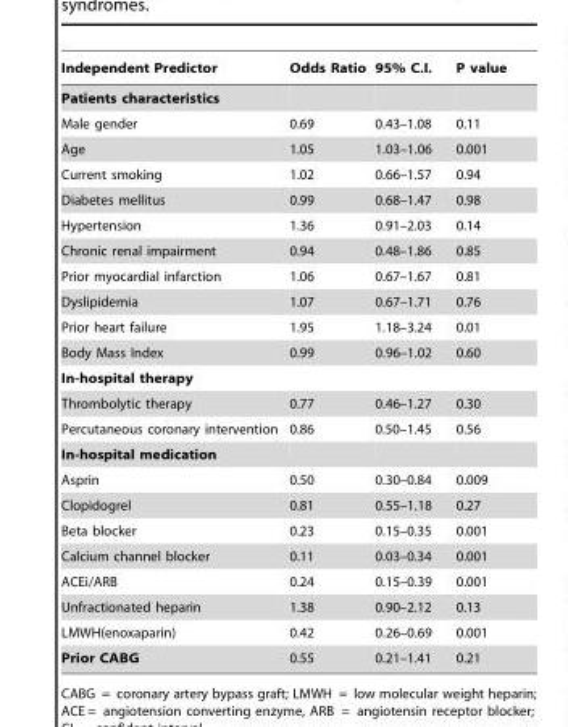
<table><thead><tr><td>Independent Predictor</td><td>Odds Ratio</td><td>95% C.I.</td><td>P value</td></tr></thead><tbody><tr><td colspan="4">Patients characteristics</td></tr><tr><td>Male gender</td><td>0.69</td><td>0.43–1.08</td><td>0.11</td></tr><tr><td>Age</td><td>1.05</td><td>1.03–1.06</td><td>0.001</td></tr><tr><td>Current smoking</td><td>1.02</td><td>0.66–1.57</td><td>0.94</td></tr><tr><td>Diabetes mellitus</td><td>0.99</td><td>0.68–1.47</td><td>0.98</td></tr><tr><td>Hypertension</td><td>1.36</td><td>0.91–2.03</td><td>0.14</td></tr><tr><td>Chronic renal impairment</td><td>0.94</td><td>0.48–1.86</td><td>0.85</td></tr><tr><td>Prior myocardial infarction</td><td>1.06</td><td>0.67–1.67</td><td>0.81</td></tr><tr><td>Dyslipidemia</td><td>1.07</td><td>0.67–1.71</td><td>0.76</td></tr><tr><td>Prior heart failure</td><td>1.95</td><td>1.18–3.24</td><td>0.01</td></tr><tr><td>Body Mass Index</td><td>0.99</td><td>0.96–1.02</td><td>0.60</td></tr><tr><td colspan="4">In-hospital therapy</td></tr><tr><td>Thrombolytic therapy</td><td>0.77</td><td>0.46–1.27</td><td>0.30</td></tr><tr><td>Percutaneous coronary intervention</td><td>0.86</td><td>0.50–1.45</td><td>0.56</td></tr><tr><td colspan="4">In-hospital medication</td></tr><tr><td>Asprin</td><td>0.50</td><td>0.30–0.84</td><td>0.009</td></tr><tr><td>Clopidogrel</td><td>0.81</td><td>0.55–1.18</td><td>0.27</td></tr><tr><td>Beta blocker</td><td>0.23</td><td>0.15–0.35</td><td>0.001</td></tr><tr><td>Calcium channel blocker</td><td>0.11</td><td>0.03–0.34</td><td>0.001</td></tr><tr><td>ACEi/ARB</td><td>0.24</td><td>0.15–0.39</td><td>0.001</td></tr><tr><td>Unfractionated heparin</td><td>1.38</td><td>0.90–2.12</td><td>0.13</td></tr><tr><td>LMWH(enoxaparin)</td><td>0.42</td><td>0.26–0.69</td><td>0.001</td></tr><tr><td>Prior CABG</td><td>0.55</td><td>0.21–1.41</td><td>0.21</td></tr></tbody></table>